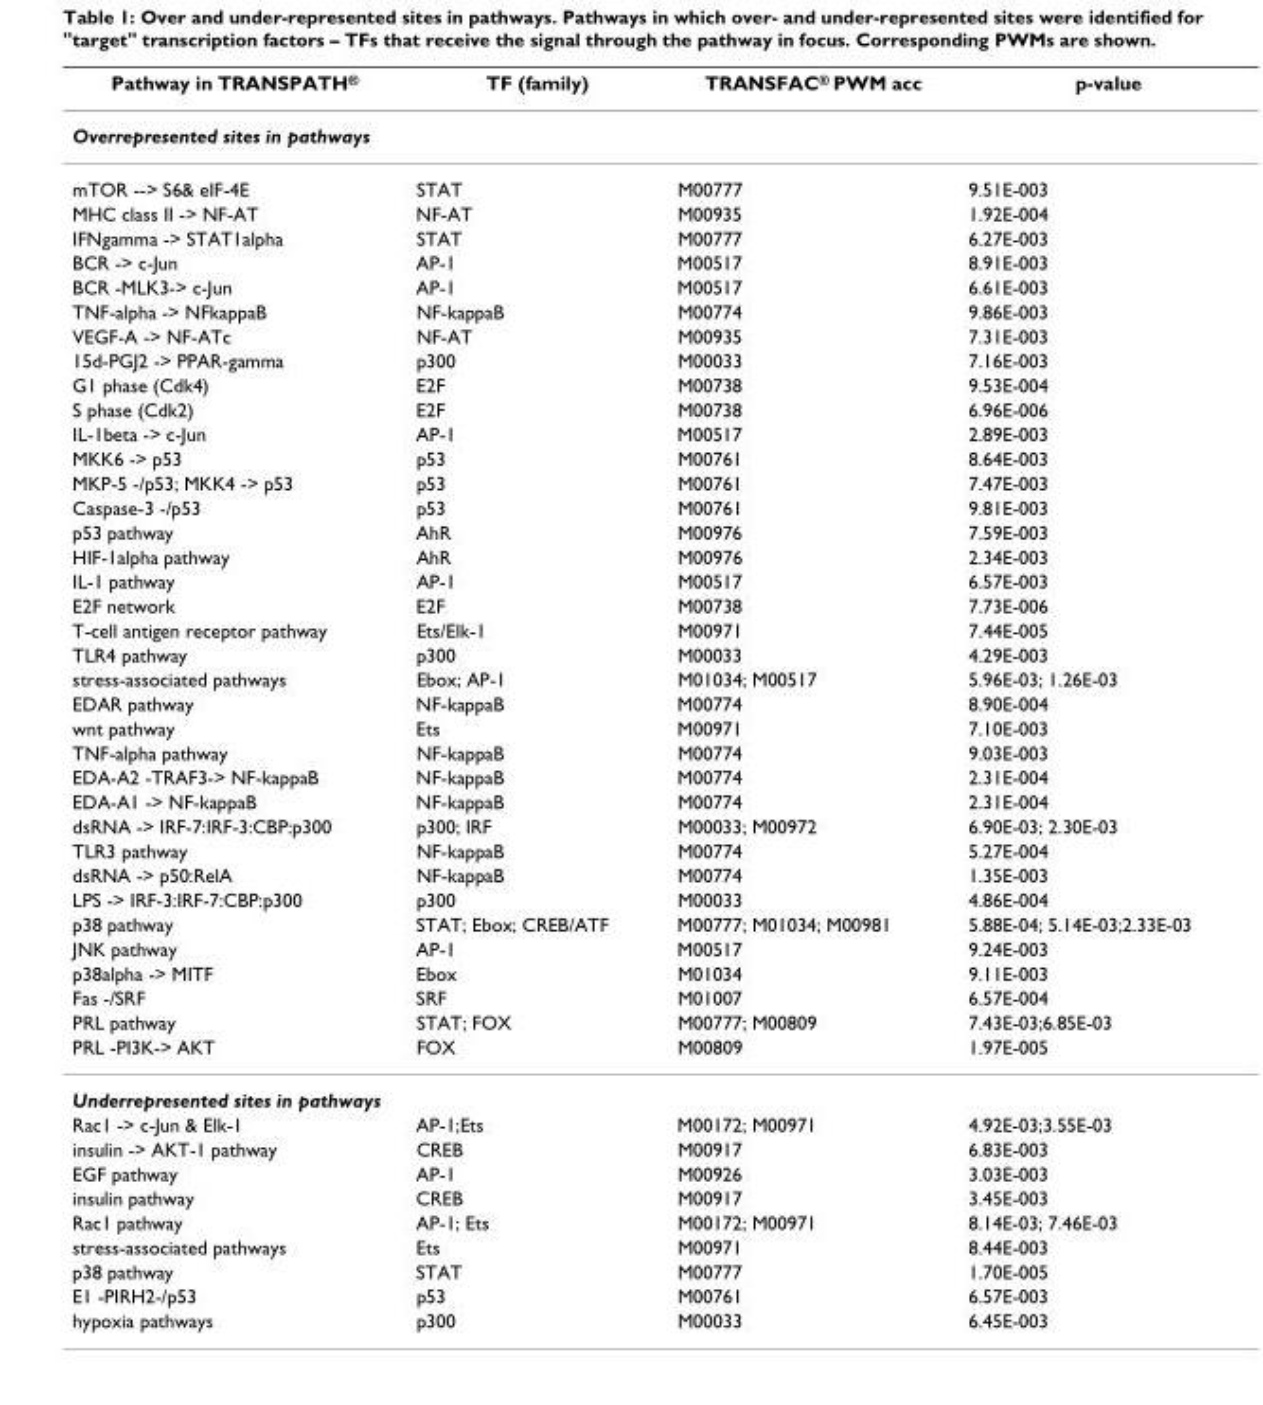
<table><thead><tr><td>Pathway in TRANSPATH®</td><td>TF (family)</td><td>TRANSFAC® PWM acc</td><td>p-value</td></tr></thead><tbody><tr><td colspan="4">Overrepresented sites in pathways</td></tr><tr><td>mTOR --&gt; S6&amp; eIF-4E</td><td>STAT</td><td>M00777</td><td>9.51E-003</td></tr><tr><td>MHC class II -&gt; NF-AT</td><td>NF-AT</td><td>M00935</td><td>1.92E-004</td></tr><tr><td>IFNgamma -&gt; STAT1alpha</td><td>STAT</td><td>M00777</td><td>6.27E-003</td></tr><tr><td>BCR -&gt; c-Jun</td><td>AP-1</td><td>M00517</td><td>8.91E-003</td></tr><tr><td>BCR -MLK3-&gt; c-Jun</td><td>AP-1</td><td>M00517</td><td>6.61E-003</td></tr><tr><td>TNF-alpha -&gt; NFkappaB</td><td>NF-kappaB</td><td>M00774</td><td>9.86E-003</td></tr><tr><td>VEGF-A -&gt; NF-ATc</td><td>NF-AT</td><td>M00935</td><td>7.31E-003</td></tr><tr><td>15d-PGJ2 -&gt; PPAR-gamma</td><td>p300</td><td>M00033</td><td>7.16E-003</td></tr><tr><td>G1 phase (Cdk4)</td><td>E2F</td><td>M00738</td><td>9.53E-004</td></tr><tr><td>S phase (Cdk2)</td><td>E2F</td><td>M00738</td><td>6.96E-006</td></tr><tr><td>IL-1beta -&gt; c-Jun</td><td>AP-1</td><td>M00517</td><td>2.89E-003</td></tr><tr><td>MKK6 -&gt; p53</td><td>p53</td><td>M00761</td><td>8.64E-003</td></tr><tr><td>MKP-5 -/p53; MKK4 -&gt; p53</td><td>p53</td><td>M00761</td><td>7.47E-003</td></tr><tr><td>Caspase-3 -/p53</td><td>p53</td><td>M00761</td><td>9.81E-003</td></tr><tr><td>p53 pathway</td><td>AhR</td><td>M00976</td><td>7.59E-003</td></tr><tr><td>HIF-1alpha pathway</td><td>AhR</td><td>M00976</td><td>2.34E-003</td></tr><tr><td>IL-1 pathway</td><td>AP-1</td><td>M00517</td><td>6.57E-003</td></tr><tr><td>E2F network</td><td>E2F</td><td>M00738</td><td>7.73E-006</td></tr><tr><td>T-cell antigen receptor pathway</td><td>Ets/Elk-1</td><td>M00971</td><td>7.44E-005</td></tr><tr><td>TLR4 pathway</td><td>p300</td><td>M00033</td><td>4.29E-003</td></tr><tr><td>stress-associated pathways</td><td>Ebox; AP-1</td><td>M01034; M00517</td><td>5.96E-03; 1.26E-03</td></tr><tr><td>EDAR pathway</td><td>NF-kappaB</td><td>M00774</td><td>8.90E-004</td></tr><tr><td>wnt pathway</td><td>Ets</td><td>M00971</td><td>7.10E-003</td></tr><tr><td>TNF-alpha pathway</td><td>NF-kappaB</td><td>M00774</td><td>9.03E-003</td></tr><tr><td>EDA-A2 -TRAF3-&gt; NF-kappaB</td><td>NF-kappaB</td><td>M00774</td><td>2.31E-004</td></tr><tr><td>EDA-A1 -&gt; NF-kappaB</td><td>NF-kappaB</td><td>M00774</td><td>2.31E-004</td></tr><tr><td>dsRNA -&gt; IRF-7:IRF-3:CBP:p300</td><td>p300; IRF</td><td>M00033; M00972</td><td>6.90E-03; 2.30E-03</td></tr><tr><td>TLR3 pathway</td><td>NF-kappaB</td><td>M00774</td><td>5.27E-004</td></tr><tr><td>dsRNA -&gt; p50:RelA</td><td>NF-kappaB</td><td>M00774</td><td>1.35E-003</td></tr><tr><td>LPS -&gt; IRF-3:IRF-7:CBP:p300</td><td>p300</td><td>M00033</td><td>4.86E-004</td></tr><tr><td>p38 pathway</td><td>STAT; Ebox; CREB/ATF</td><td>M00777; M01034; M00981</td><td>5.88E-04; 5.14E-03;2.33E-03</td></tr><tr><td>JNK pathway</td><td>AP-1</td><td>M00517</td><td>9.24E-003</td></tr><tr><td>p38alpha -&gt; MITF</td><td>Ebox</td><td>M01034</td><td>9.11E-003</td></tr><tr><td>Fas -/SRF</td><td>SRF</td><td>M01007</td><td>6.57E-004</td></tr><tr><td>PRL pathway</td><td>STAT; FOX</td><td>M00777; M00809</td><td>7.43E-03;6.85E-03</td></tr><tr><td>PRL -PI3K-&gt; AKT</td><td>FOX</td><td>M00809</td><td>1.97E-005</td></tr><tr><td colspan="4">Underrepresented sites in pathways</td></tr><tr><td>Rac1 -&gt; c-Jun &amp; Elk-1</td><td>AP-1;Ets</td><td>M00172; M00971</td><td>4.92E-03;3.55E-03</td></tr><tr><td>insulin -&gt; AKT-1 pathway</td><td>CREB</td><td>M00917</td><td>6.83E-003</td></tr><tr><td>EGF pathway</td><td>AP-1</td><td>M00926</td><td>3.03E-003</td></tr><tr><td>insulin pathway</td><td>CREB</td><td>M00917</td><td>3.45E-003</td></tr><tr><td>Rac1 pathway</td><td>AP-1; Ets</td><td>M00172; M00971</td><td>8.14E-03; 7.46E-03</td></tr><tr><td>stress-associated pathways</td><td>Ets</td><td>M00971</td><td>8.44E-003</td></tr><tr><td>p38 pathway</td><td>STAT</td><td>M00777</td><td>1.70E-005</td></tr><tr><td>E1 -PIRH2-/p53</td><td>p53</td><td>M00761</td><td>6.57E-003</td></tr><tr><td>hypoxia pathways</td><td>p300</td><td>M00033</td><td>6.45E-003</td></tr></tbody></table>